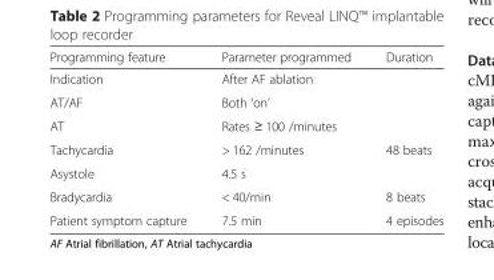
<table><thead><tr><td>Programming feature</td><td>Parameter programmed</td><td>Duration</td></tr></thead><tbody><tr><td>Indication</td><td>After AF ablation</td><td></td></tr><tr><td>AT/AF</td><td>Both ‘on’</td><td></td></tr><tr><td>AT</td><td>Rates ≥ 100 /minutes</td><td></td></tr><tr><td>Tachycardia</td><td>&gt; 162 /minutes</td><td>48 beats</td></tr><tr><td>Asystole</td><td>4.5 s</td><td></td></tr><tr><td>Bradycardia</td><td>&lt; 40/min</td><td>8 beats</td></tr><tr><td>Patient symptom capture</td><td>7.5 min</td><td>4 episodes</td></tr></tbody></table>